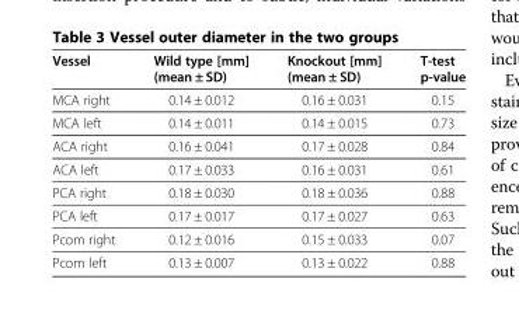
<table><thead><tr><td>Vessel</td><td>Wild type [mm] (mean ± SD)</td><td>Knockout [mm] (mean ± SD)</td><td>T-test p-value</td></tr></thead><tbody><tr><td>MCA right</td><td>0.14 ± 0.012</td><td>0.16 ± 0.031</td><td>0.15</td></tr><tr><td>MCA left</td><td>0.14 ± 0.011</td><td>0.14 ± 0.015</td><td>0.73</td></tr><tr><td>ACA right</td><td>0.16 ± 0.041</td><td>0.17 ± 0.028</td><td>0.84</td></tr><tr><td>ACA left</td><td>0.17 ± 0.033</td><td>0.16 ± 0.031</td><td>0.61</td></tr><tr><td>PCA right</td><td>0.18 ± 0.030</td><td>0.18 ± 0.036</td><td>0.88</td></tr><tr><td>PCA left</td><td>0.17 ± 0.017</td><td>0.17 ± 0.027</td><td>0.63</td></tr><tr><td>Pcom right</td><td>0.12 ± 0.016</td><td>0.15 ± 0.033</td><td>0.07</td></tr><tr><td>Pcom left</td><td>0.13 ± 0.007</td><td>0.13 ± 0.022</td><td>0.88</td></tr></tbody></table>